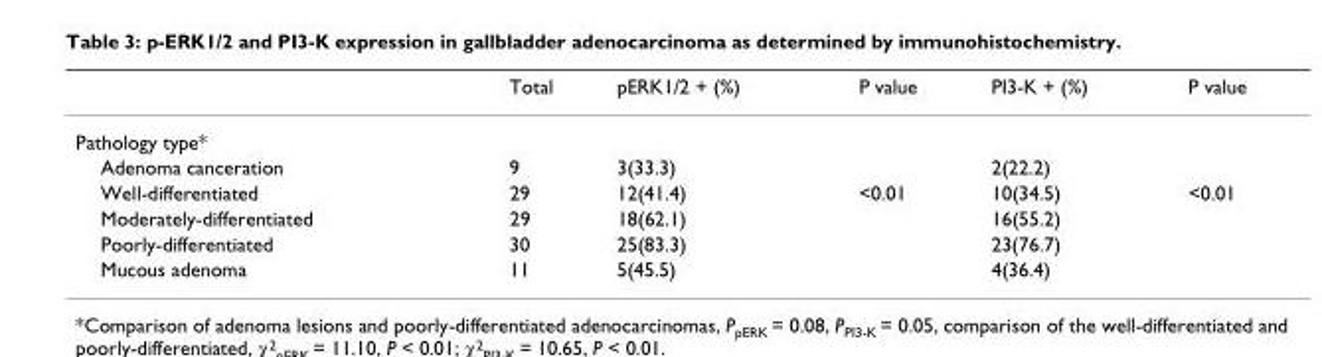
<table><thead><tr><td></td><td>Total</td><td>pERK1/2 + (%)</td><td>P value</td><td>PI3-K + (%)</td><td>P value</td></tr></thead><tbody><tr><td colspan="6">Pathology type*</td></tr><tr><td>Adenoma canceration</td><td>9</td><td>3(33.3)</td><td></td><td>2(22.2)</td><td></td></tr><tr><td>Well-differentiated</td><td>29</td><td>12(41.4)</td><td>&lt;0.01</td><td>10(34.5)</td><td>&lt;0.01</td></tr><tr><td>Moderately-differentiated</td><td>29</td><td>18(62.1)</td><td></td><td>16(55.2)</td><td></td></tr><tr><td>Poorly-differentiated</td><td>30</td><td>25(83.3)</td><td></td><td>23(76.7)</td><td></td></tr><tr><td>Mucous adenoma</td><td>11</td><td>5(45.5)</td><td></td><td>4(36.4)</td><td></td></tr></tbody></table>